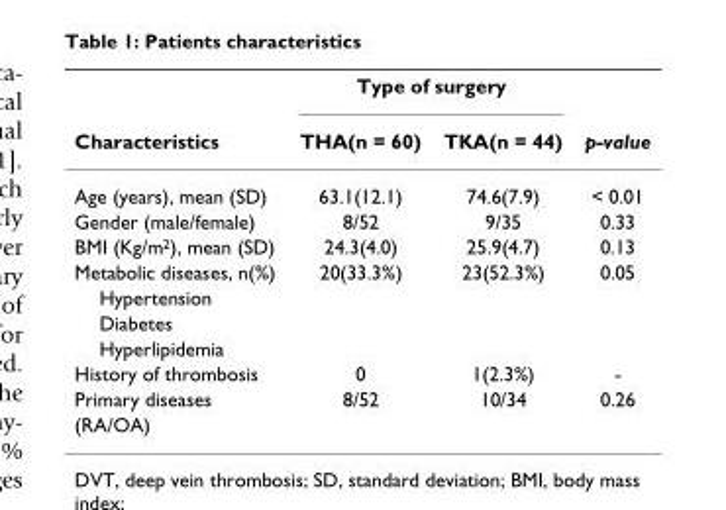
<table><thead><tr><td rowspan="2">Characteristics</td><td colspan="2">Type of surgery</td><td rowspan="2">p-value</td></tr><tr><td>THA(n = 60)</td><td>TKA(n = 44)</td></tr></thead><tbody><tr><td>Age (years), mean (SD)</td><td>63.1(12.1)</td><td>74.6(7.9)</td><td>&lt; 0.01</td></tr><tr><td>Gender (male/female)</td><td>8/52</td><td>9/35</td><td>0.33</td></tr><tr><td>BMI (Kg/m<sup>2</sup>), mean (SD)</td><td>24.3(4.0)</td><td>25.9(4.7)</td><td>0.13</td></tr><tr><td>Metabolic diseases, n(%)</td><td>20(33.3%)</td><td>23(52.3%)</td><td>0.05</td></tr><tr><td colspan="4">Hypertension</td></tr><tr><td colspan="4">Diabetes</td></tr><tr><td colspan="4">Hyperlipidemia</td></tr><tr><td>History of thrombosis</td><td>0</td><td>1(2.3%)</td><td>-</td></tr><tr><td>Primary diseases</td><td>8/52</td><td>10/34</td><td>0.26</td></tr><tr><td>(RA/OA)</td><td></td><td></td><td></td></tr></tbody></table>